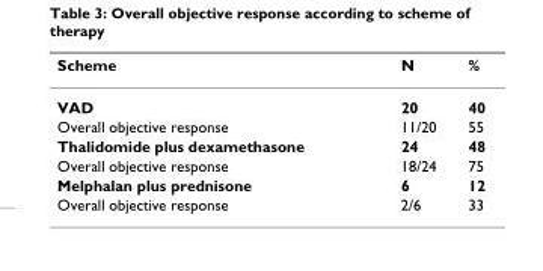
<table><thead><tr><td>Scheme</td><td>N</td><td>%</td></tr></thead><tbody><tr><td>VAD</td><td>20</td><td>40</td></tr><tr><td>Overall objective response</td><td>11/20</td><td>55</td></tr><tr><td>Thalidomide plus dexamethasone</td><td>24</td><td>48</td></tr><tr><td>Overall objective response</td><td>18/24</td><td>75</td></tr><tr><td>Melphalan plus prednisone</td><td>6</td><td>12</td></tr><tr><td>Overall objective response</td><td>2/6</td><td>33</td></tr></tbody></table>